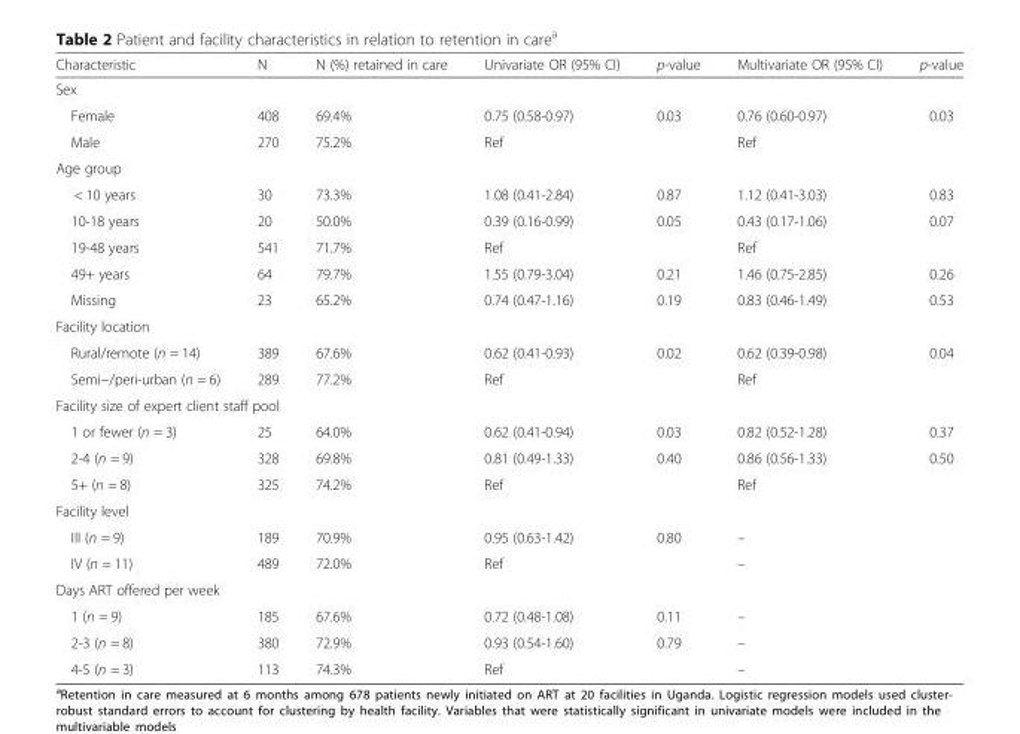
<table><thead><tr><td>Characteristic</td><td>N</td><td>N (%) retained in care</td><td>Univariate OR (95% CI)</td><td>p-value</td><td>Multivariate OR (95% CI)</td><td>p-value</td></tr></thead><tbody><tr><td colspan="7">Sex</td></tr><tr><td>Female</td><td>408</td><td>69.4%</td><td>0.75 (0.58-0.97)</td><td>0.03</td><td>0.76 (0.60-0.97)</td><td>0.03</td></tr><tr><td>Male</td><td>270</td><td>75.2%</td><td>Ref</td><td></td><td>Ref</td><td></td></tr><tr><td colspan="7">Age group</td></tr><tr><td>&lt; 10 years</td><td>30</td><td>73.3%</td><td>1.08 (0.41-2.84)</td><td>0.87</td><td>1.12 (0.41-3.03)</td><td>0.83</td></tr><tr><td>10-18 years</td><td>20</td><td>50.0%</td><td>0.39 (0.16-0.99)</td><td>0.05</td><td>0.43 (0.17-1.06)</td><td>0.07</td></tr><tr><td>19-48 years</td><td>541</td><td>71.7%</td><td>Ref</td><td></td><td>Ref</td><td></td></tr><tr><td>49+ years</td><td>64</td><td>79.7%</td><td>1.55 (0.79-3.04)</td><td>0.21</td><td>1.46 (0.75-2.85)</td><td>0.26</td></tr><tr><td>Missing</td><td>23</td><td>65.2%</td><td>0.74 (0.47-1.16)</td><td>0.19</td><td>0.83 (0.46-1.49)</td><td>0.53</td></tr><tr><td colspan="7">Facility location</td></tr><tr><td>Rural/remote (n = 14)</td><td>389</td><td>67.6%</td><td>0.62 (0.41-0.93)</td><td>0.02</td><td>0.62 (0.39-0.98)</td><td>0.04</td></tr><tr><td>Semi−/peri-urban (n = 6)</td><td>289</td><td>77.2%</td><td>Ref</td><td></td><td>Ref</td><td></td></tr><tr><td colspan="7">Facility size of expert client staff pool</td></tr><tr><td>1 or fewer (n = 3)</td><td>25</td><td>64.0%</td><td>0.62 (0.41-0.94)</td><td>0.03</td><td>0.82 (0.52-1.28)</td><td>0.37</td></tr><tr><td>2-4 (n = 9)</td><td>328</td><td>69.8%</td><td>0.81 (0.49-1.33)</td><td>0.40</td><td>0.86 (0.56-1.33)</td><td>0.50</td></tr><tr><td>5+ (n = 8)</td><td>325</td><td>74.2%</td><td>Ref</td><td></td><td>Ref</td><td></td></tr><tr><td colspan="7">Facility level</td></tr><tr><td>III (n = 9)</td><td>189</td><td>70.9%</td><td>0.95 (0.63-1.42)</td><td>0.80</td><td>–</td><td></td></tr><tr><td>IV (n = 11)</td><td>489</td><td>72.0%</td><td>Ref</td><td></td><td>–</td><td></td></tr><tr><td colspan="7">Days ART offered per week</td></tr><tr><td>1 (n = 9)</td><td>185</td><td>67.6%</td><td>0.72 (0.48-1.08)</td><td>0.11</td><td>–</td><td></td></tr><tr><td>2-3 (n = 8)</td><td>380</td><td>72.9%</td><td>0.93 (0.54-1.60)</td><td>0.79</td><td>–</td><td></td></tr><tr><td>4-5 (n = 3)</td><td>113</td><td>74.3%</td><td>Ref</td><td></td><td>–</td><td></td></tr></tbody></table>